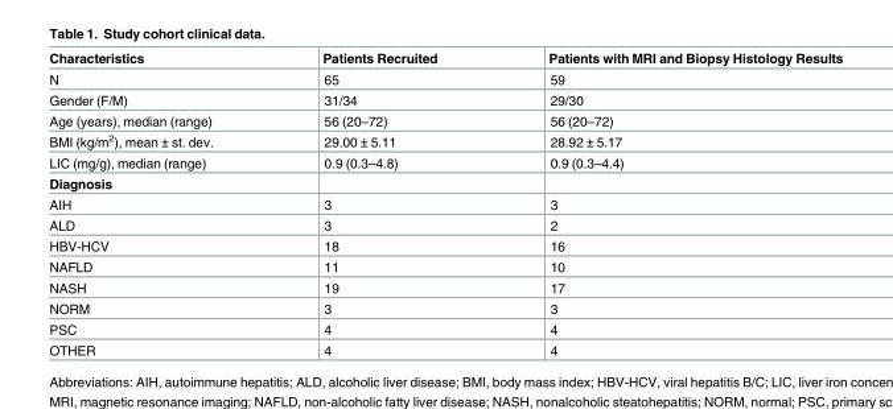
<table><thead><tr><td>Characteristics</td><td>Patients Recruited</td><td>Patients with MRI and Biopsy Histology Results</td></tr></thead><tbody><tr><td>N</td><td>65</td><td>59</td></tr><tr><td>Gender (F/M)</td><td>31/34</td><td>29/30</td></tr><tr><td>Age (years), median (range)</td><td>56 (20–72)</td><td>56 (20–72)</td></tr><tr><td>BMI (kg/m<sup>2</sup>), mean ± st. dev.</td><td>29.00 ± 5.11</td><td>28.92 ± 5.17</td></tr><tr><td>LIC (mg/g), median (range)</td><td>0.9 (0.3–4.8)</td><td>0.9 (0.3–4.4)</td></tr><tr><td colspan="3">Diagnosis</td></tr><tr><td>AIH</td><td>3</td><td>3</td></tr><tr><td>ALD</td><td>3</td><td>2</td></tr><tr><td>HBV-HCV</td><td>18</td><td>16</td></tr><tr><td>NAFLD</td><td>11</td><td>10</td></tr><tr><td>NASH</td><td>19</td><td>17</td></tr><tr><td>NORM</td><td>3</td><td>3</td></tr><tr><td>PSC</td><td>4</td><td>4</td></tr><tr><td>OTHER</td><td>4</td><td>4</td></tr></tbody></table>